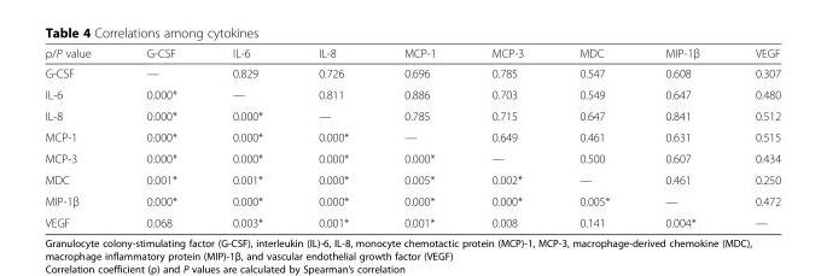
<table><thead><tr><td>ρ/P value</td><td>G-CSF</td><td>IL-6</td><td>IL-8</td><td>MCP-1</td><td>MCP-3</td><td>MDC</td><td>MIP-1β</td><td>VEGF</td></tr></thead><tbody><tr><td>G-CSF</td><td>—</td><td>0.829</td><td>0.726</td><td>0.696</td><td>0.785</td><td>0.547</td><td>0.608</td><td>0.307</td></tr><tr><td>IL-6</td><td>0.000*</td><td>—</td><td>0.811</td><td>0.886</td><td>0.703</td><td>0.549</td><td>0.647</td><td>0.480</td></tr><tr><td>IL-8</td><td>0.000*</td><td>0.000*</td><td>—</td><td>0.785</td><td>0.715</td><td>0.647</td><td>0.841</td><td>0.512</td></tr><tr><td>MCP-1</td><td>0.000*</td><td>0.000*</td><td>0.000*</td><td>—</td><td>0.649</td><td>0.461</td><td>0.631</td><td>0.515</td></tr><tr><td>MCP-3</td><td>0.000*</td><td>0.000*</td><td>0.000*</td><td>0.000*</td><td>—</td><td>0.500</td><td>0.607</td><td>0.434</td></tr><tr><td>MDC</td><td>0.001*</td><td>0.001*</td><td>0.000*</td><td>0.005*</td><td>0.002*</td><td>—</td><td>0.461</td><td>0.250</td></tr><tr><td>MIP-1β</td><td>0.000*</td><td>0.000*</td><td>0.000*</td><td>0.000*</td><td>0.000*</td><td>0.005*</td><td>—</td><td>0.472</td></tr><tr><td>VEGF</td><td>0.068</td><td>0.003*</td><td>0.001*</td><td>0.001*</td><td>0.008</td><td>0.141</td><td>0.004*</td><td>—</td></tr></tbody></table>